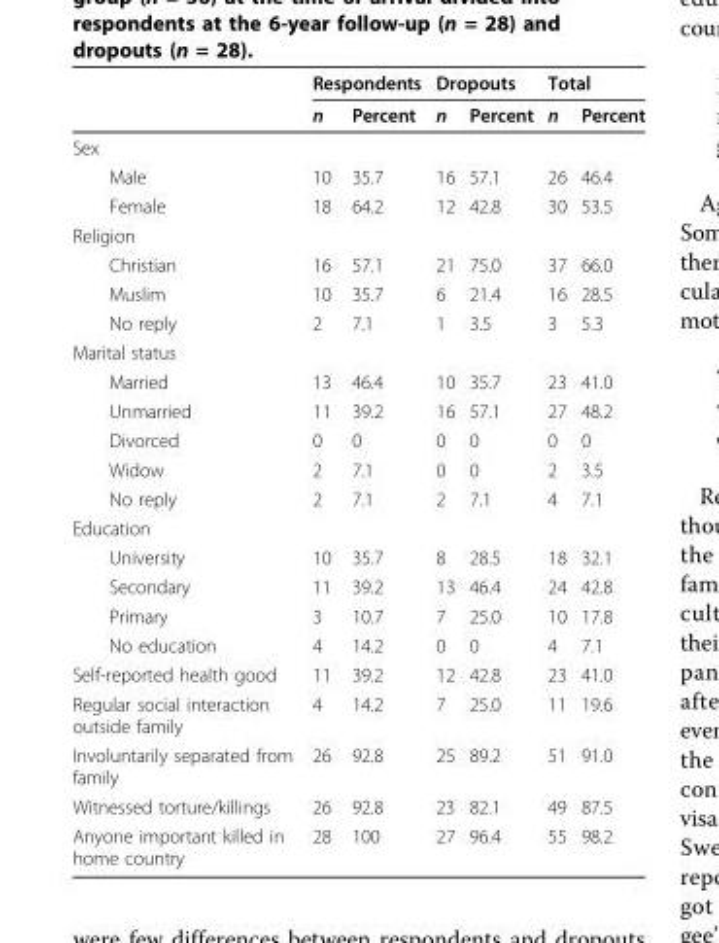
<table><thead><tr><td rowspan="2"></td><td colspan="2">Respondents</td><td colspan="2">Dropouts</td><td colspan="2">Total</td></tr><tr><td>n</td><td>Percent</td><td>n</td><td>Percent</td><td>n</td><td>Percent</td></tr></thead><tbody><tr><td colspan="7">Sex</td></tr><tr><td>Male</td><td>10</td><td>35.7</td><td>16</td><td>57.1</td><td>26</td><td>46.4</td></tr><tr><td>Female</td><td>18</td><td>64.2</td><td>12</td><td>42.8</td><td>30</td><td>53.5</td></tr><tr><td colspan="7">Religion</td></tr><tr><td>Christian</td><td>16</td><td>57.1</td><td>21</td><td>75.0</td><td>37</td><td>66.0</td></tr><tr><td>Muslim</td><td>10</td><td>35.7</td><td>6</td><td>21.4</td><td>16</td><td>28.5</td></tr><tr><td>No reply</td><td>2</td><td>7.1</td><td>1</td><td>3.5</td><td>3</td><td>5.3</td></tr><tr><td colspan="7">Marital status</td></tr><tr><td>Married</td><td>13</td><td>46.4</td><td>10</td><td>35.7</td><td>23</td><td>41.0</td></tr><tr><td>Unmarried</td><td>11</td><td>39.2</td><td>16</td><td>57.1</td><td>27</td><td>48.2</td></tr><tr><td>Divorced</td><td>0</td><td>0</td><td>0</td><td>0</td><td>0</td><td>0</td></tr><tr><td>Widow</td><td>2</td><td>7.1</td><td>0</td><td>0</td><td>2</td><td>3.5</td></tr><tr><td>No reply</td><td>2</td><td>7.1</td><td>2</td><td>7.1</td><td>4</td><td>7.1</td></tr><tr><td colspan="7">Education</td></tr><tr><td>University</td><td>10</td><td>35.7</td><td>8</td><td>28.5</td><td>18</td><td>32.1</td></tr><tr><td>Secondary</td><td>11</td><td>39.2</td><td>13</td><td>46.4</td><td>24</td><td>42.8</td></tr><tr><td>Primary</td><td>3</td><td>10.7</td><td>7</td><td>25.0</td><td>10</td><td>17.8</td></tr><tr><td>No education</td><td>4</td><td>14.2</td><td>0</td><td>0</td><td>4</td><td>7.1</td></tr><tr><td>Self-reported health good</td><td>11</td><td>39.2</td><td>12</td><td>42.8</td><td>23</td><td>41.0</td></tr><tr><td>Regular social interaction outside family</td><td>4</td><td>14.2</td><td>7</td><td>25.0</td><td>11</td><td>19.6</td></tr><tr><td>Involuntarily separated from family</td><td>26</td><td>92.8</td><td>25</td><td>89.2</td><td>51</td><td>91.0</td></tr><tr><td>Witnessed torture/killings</td><td>26</td><td>92.8</td><td>23</td><td>82.1</td><td>49</td><td>87.5</td></tr><tr><td>Anyone important killed in home country</td><td>28</td><td>100</td><td>27</td><td>96.4</td><td>55</td><td>98.2</td></tr></tbody></table>